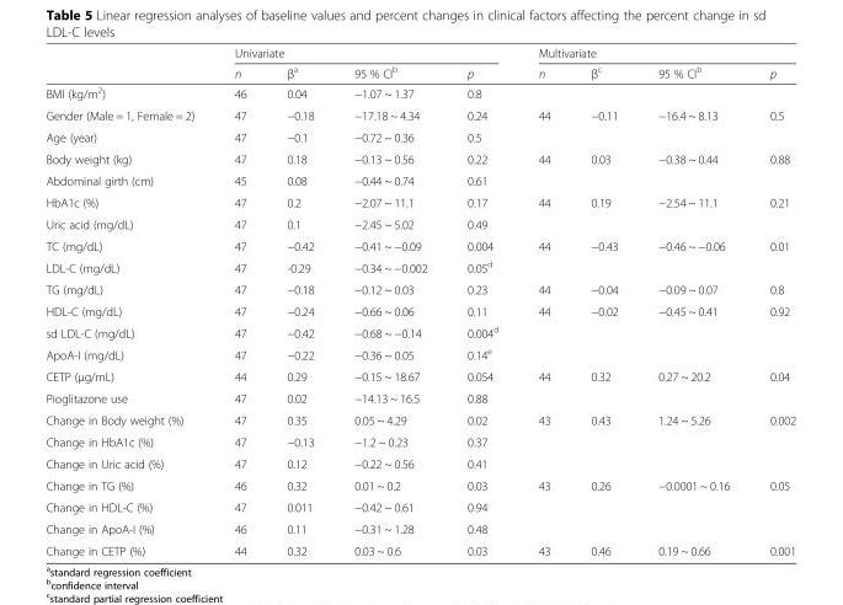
<table><thead><tr><td rowspan="2"></td><td colspan="4">Univariate</td><td colspan="4">Multivariate</td></tr><tr><td>n</td><td>β<sup>a</sup></td><td>95 % CI<sup>b</sup></td><td>p</td><td>n</td><td>β<sup>c</sup></td><td>95 % CI<sup>b</sup></td><td>p</td></tr></thead><tbody><tr><td>BMI (kg/m<sup>2</sup>)</td><td>46</td><td>0.04</td><td>−1.07 ~ 1.37</td><td>0.8</td><td></td><td></td><td></td><td></td></tr><tr><td>Gender (Male = 1, Female = 2)</td><td>47</td><td>−0.18</td><td>−17.18 ~ 4.34</td><td>0.24</td><td>44</td><td>−0.11</td><td>−16.4 ~ 8.13</td><td>0.5</td></tr><tr><td>Age (year)</td><td>47</td><td>−0.1</td><td>−0.72 ~ 0.36</td><td>0.5</td><td></td><td></td><td></td><td></td></tr><tr><td>Body weight (kg)</td><td>47</td><td>0.18</td><td>−0.13 ~ 0.56</td><td>0.22</td><td>44</td><td>0.03</td><td>−0.38 ~ 0.44</td><td>0.88</td></tr><tr><td>Abdominal girth (cm)</td><td>45</td><td>0.08</td><td>−0.44 ~ 0.74</td><td>0.61</td><td></td><td></td><td></td><td></td></tr><tr><td>HbA1c (%)</td><td>47</td><td>0.2</td><td>−2.07 ~ 11.1</td><td>0.17</td><td>44</td><td>0.19</td><td>−2.54 ~ 11.1</td><td>0.21</td></tr><tr><td>Uric acid (mg/dL)</td><td>47</td><td>0.1</td><td>−2.45 ~ 5.02</td><td>0.49</td><td></td><td></td><td></td><td></td></tr><tr><td>TC (mg/dL)</td><td>47</td><td>−0.42</td><td>−0.41 ~ −0.09</td><td>0.004</td><td>44</td><td>−0.43</td><td>−0.46 ~ −0.06</td><td>0.01</td></tr><tr><td>LDL-C (mg/dL)</td><td>47</td><td>-0.29</td><td>−0.34 ~ −0.002</td><td>0.05<sup>d</sup></td><td></td><td></td><td></td><td></td></tr><tr><td>TG (mg/dL)</td><td>47</td><td>−0.18</td><td>−0.12 ~ 0.03</td><td>0.23</td><td>44</td><td>−0.04</td><td>−0.09 ~ 0.07</td><td>0.8</td></tr><tr><td>HDL-C (mg/dL)</td><td>47</td><td>−0.24</td><td>−0.66 ~ 0.06</td><td>0.11</td><td>44</td><td>−0.02</td><td>−0.45 ~ 0.41</td><td>0.92</td></tr><tr><td>sd LDL-C (mg/dL)</td><td>47</td><td>−0.42</td><td>−0.68 ~ −0.14</td><td>0.004<sup>d</sup></td><td></td><td></td><td></td><td></td></tr><tr><td>ApoA-I (mg/dL)</td><td>47</td><td>−0.22</td><td>−0.36 ~ 0.05</td><td>0.14<sup>e</sup></td><td></td><td></td><td></td><td></td></tr><tr><td>CETP (μg/mL)</td><td>44</td><td>0.29</td><td>−0.15 ~ 18.67</td><td>0.054</td><td>44</td><td>0.32</td><td>0.27 ~ 20.2</td><td>0.04</td></tr><tr><td>Pioglitazone use</td><td>47</td><td>0.02</td><td>−14.13 ~ 16.5</td><td>0.88</td><td></td><td></td><td></td><td></td></tr><tr><td>Change in Body weight (%)</td><td>47</td><td>0.35</td><td>0.05 ~ 4.29</td><td>0.02</td><td>43</td><td>0.43</td><td>1.24 ~ 5.26</td><td>0.002</td></tr><tr><td>Change in HbA1c (%)</td><td>47</td><td>−0.13</td><td>−1.2 ~ 0.23</td><td>0.37</td><td></td><td></td><td></td><td></td></tr><tr><td>Change in Uric acid (%)</td><td>47</td><td>0.12</td><td>−0.22 ~ 0.56</td><td>0.41</td><td></td><td></td><td></td><td></td></tr><tr><td>Change in TG (%)</td><td>46</td><td>0.32</td><td>0.01 ~ 0.2</td><td>0.03</td><td>43</td><td>0.26</td><td>−0.0001 ~ 0.16</td><td>0.05</td></tr><tr><td>Change in HDL-C (%)</td><td>47</td><td>0.011</td><td>−0.42 ~ 0.61</td><td>0.94</td><td></td><td></td><td></td><td></td></tr><tr><td>Change in ApoA-I (%)</td><td>46</td><td>0.11</td><td>−0.31 ~ 1.28</td><td>0.48</td><td></td><td></td><td></td><td></td></tr><tr><td>Change in CETP (%)</td><td>44</td><td>0.32</td><td>0.03 ~ 0.6</td><td>0.03</td><td>43</td><td>0.46</td><td>0.19 ~ 0.66</td><td>0.001</td></tr></tbody></table>